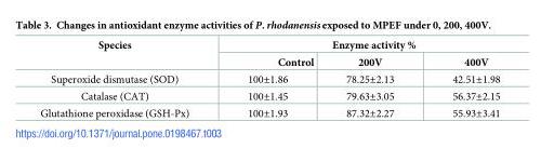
<table><thead><tr><td rowspan="2">Species</td><td colspan="3">Enzyme activity %</td></tr><tr><td>Control</td><td>200V</td><td>400V</td></tr></thead><tbody><tr><td>Superoxide dismutase (SOD)</td><td>100±1.86</td><td>78.25±2.13</td><td>42.51±1.98</td></tr><tr><td>Catalase (CAT)</td><td>100±1.45</td><td>79.63±3.05</td><td>56.37±2.15</td></tr><tr><td>Glutathione peroxidase (GSH-Px)</td><td>100±1.93</td><td>87.32±2.27</td><td>55.93±3.41</td></tr></tbody></table>